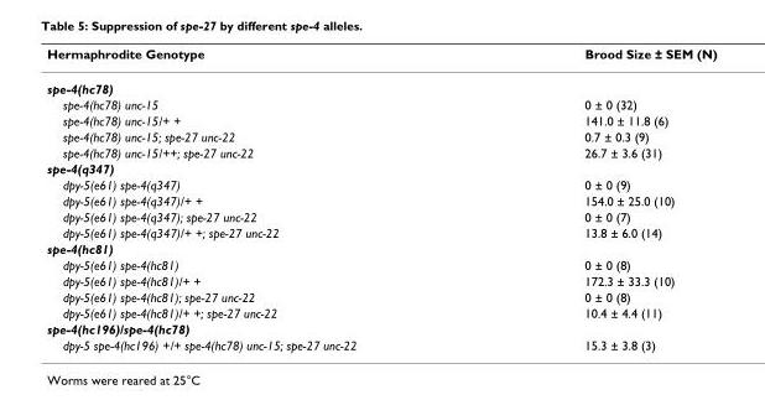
<table><thead><tr><td>Hermaphrodite Genotype</td><td>Brood Size ± SEM (N)</td></tr></thead><tbody><tr><td colspan="2">spe-4(hc78)</td></tr><tr><td>spe-4(hc78) unc-15</td><td>0 ± 0 (32)</td></tr><tr><td>spe-4(hc78) unc-15/+ +</td><td>141.0 ± 11.8 (6)</td></tr><tr><td>spe-4(hc78) unc-15; spe-27 unc-22</td><td>0.7 ± 0.3 (9)</td></tr><tr><td>spe-4(hc78) unc-15/++; spe-27 unc-22</td><td>26.7 ± 3.6 (31)</td></tr><tr><td colspan="2">spe-4(q347)</td></tr><tr><td>dpy-5(e61) spe-4(q347)</td><td>0 ± 0 (9)</td></tr><tr><td>dpy-5(e61) spe-4(q347)/+ +</td><td>154.0 ± 25.0 (10)</td></tr><tr><td>dpy-5(e61) spe-4(q347); spe-27 unc-22</td><td>0 ± 0 (7)</td></tr><tr><td>dpy-5(e61) spe-4(q347)/+ +; spe-27 unc-22</td><td>13.8 ± 6.0 (14)</td></tr><tr><td colspan="2">spe-4(hc81)</td></tr><tr><td>dpy-5(e61) spe-4(hc81)</td><td>0 ± 0 (8)</td></tr><tr><td>dpy-5(e61) spe-4(hc81)/+ +</td><td>172.3 ± 33.3 (10)</td></tr><tr><td>dpy-5(e61) spe-4(hc81); spe-27 unc-22</td><td>0 ± 0 (8)</td></tr><tr><td>dpy-5(e61) spe-4(hc81)/+ +; spe-27 unc-22</td><td>10.4 ± 4.4 (11)</td></tr><tr><td colspan="2">spe-4(hc196)/spe-4(hc78)</td></tr><tr><td>dpy-5 spe-4(hc196) +/+ spe-4(hc78) unc-15; spe-27 unc-22</td><td>15.3 ± 3.8 (3)</td></tr></tbody></table>